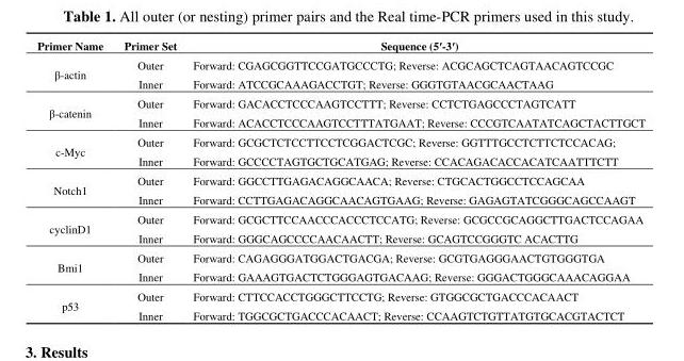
<table><thead><tr><td>Primer Name</td><td>Primer Set</td><td>Sequence (5′-3′)</td></tr></thead><tbody><tr><td rowspan="2">β-actin</td><td>Outer</td><td>Forward: CGAGCGGTTCCGATGCCCTG; Reverse: ACGCAGCTCAGTAACAGTCCGC</td></tr><tr><td>Inner</td><td>Forward: ATCCGCAAAGACCTGT; Reverse: GGGTGTAACGCAACTAAG</td></tr><tr><td rowspan="2">β-catenin</td><td>Outer</td><td>Forward: GACACCTCCCAAGTCCTTT; Reverse: CCTCTGAGCCCTAGTCATT</td></tr><tr><td>Inner</td><td>Forward: ACACCTCCCAAGTCCTTTATGAAT; Reverse: CCCGTCAATATCAGCTACTTGCT</td></tr><tr><td rowspan="2">c-Myc</td><td>Outer</td><td>Forward: GCGCTCTCCTTCCTCGGACTCGC; Reverse: GGTTTGCCTCTTCTCCACAG;</td></tr><tr><td>Inner</td><td>Forward: GCCCCTAGTGCTGCATGAG; Reverse: CCACAGACACCACATCAATTTCTT</td></tr><tr><td rowspan="2">Notch1</td><td>Outer</td><td>Forward: GGCCTTGAGACAGGCAACA; Reverse: CTGCACTGGCCTCCAGCAA</td></tr><tr><td>Inner</td><td>Forward: CCTTGAGACAGGCAACAGTGAAG; Reverse: GAGAGTATCGGGCAGCCAAGT</td></tr><tr><td rowspan="2">cyclinD1</td><td>Outer</td><td>Forward: GCGCTTCCAACCCACCCTCCATG; Reverse: GCGCCGCAGGCTTGACTCCAGAA</td></tr><tr><td>Inner</td><td>Forward: GGGCAGCCCCAACAACTT; Reverse: GCAGTCCGGGTC ACACTTG</td></tr><tr><td rowspan="2">Bmi1</td><td>Outer</td><td>Forward: CAGAGGGATGGACTGACGA; Reverse: GCGTGAGGGAACTGTGGGTGA</td></tr><tr><td>Inner</td><td>Forward: GAAAGTGACTCTGGGAGTGACAAG; Reverse: GGGACTGGGCAAACAGGAA</td></tr><tr><td rowspan="2">p53</td><td>Outer</td><td>Forward: CTTCCACCTGGGCTTCCTG; Reverse: GTGGCGCTGACCCACAACT</td></tr><tr><td>Inner</td><td>Forward: TGGCGCTGACCCACAACT; Reverse: CCAAGTCTGTTATGTGCACGTACTCT</td></tr></tbody></table>